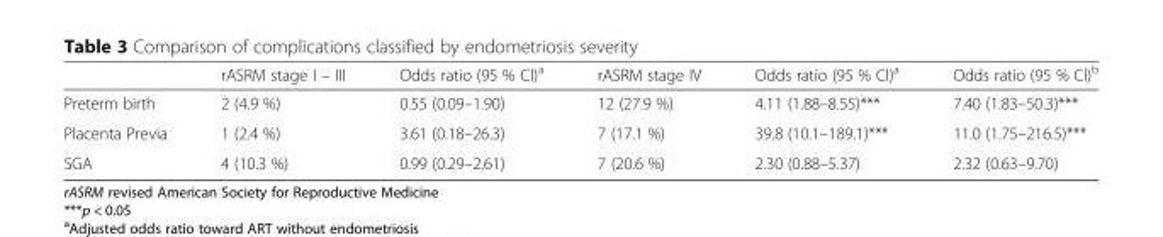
<table><thead><tr><td></td><td>rASRM stage I – III</td><td>Odds ratio (95 % Cl)<sup>a</sup></td><td>rASRM stage IV</td><td>Odds ratio (95 % Cl)<sup>a</sup></td><td>Odds ratio (95 % Cl)<sup>b</sup></td></tr></thead><tbody><tr><td>Preterm birth</td><td>2 (4.9 %)</td><td>0.55 (0.09–1.90)</td><td>12 (27.9 %)</td><td>4.11 (1.88–8.55)***</td><td>7.40 (1.83–50.3)***</td></tr><tr><td>Placenta Previa</td><td>1 (2.4 %)</td><td>3.61 (0.18–26.3)</td><td>7 (17.1 %)</td><td>39.8 (10.1–189.1)***</td><td>11.0 (1.75–216.5)***</td></tr><tr><td>SGA</td><td>4 (10.3 %)</td><td>0.99 (0.29–2.61)</td><td>7 (20.6 %)</td><td>2.30 (0.88–5.37)</td><td>2.32 (0.63–9.70)</td></tr></tbody></table>